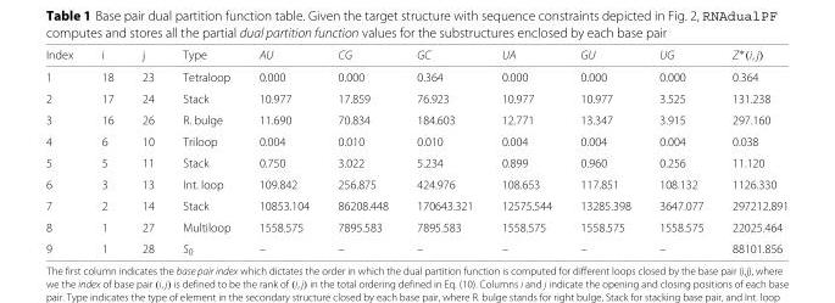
<table><thead><tr><td>Index</td><td>i</td><td>j</td><td>Type</td><td>AU</td><td>CG</td><td>GC</td><td>UA</td><td>GU</td><td>UG</td><td>Z∗(i, j)</td></tr></thead><tbody><tr><td>1</td><td>18</td><td>23</td><td>Tetraloop</td><td>0.000</td><td>0.000</td><td>0.364</td><td>0.000</td><td>0.000</td><td>0.000</td><td>0.364</td></tr><tr><td>2</td><td>17</td><td>24</td><td>Stack</td><td>10.977</td><td>17.859</td><td>76.923</td><td>10.977</td><td>10.977</td><td>3.525</td><td>131.238</td></tr><tr><td>3</td><td>16</td><td>26</td><td>R. bulge</td><td>11.690</td><td>70.834</td><td>184.603</td><td>12.771</td><td>13.347</td><td>3.915</td><td>297.160</td></tr><tr><td>4</td><td>6</td><td>10</td><td>Triloop</td><td>0.004</td><td>0.010</td><td>0.010</td><td>0.004</td><td>0.004</td><td>0.004</td><td>0.038</td></tr><tr><td>5</td><td>5</td><td>11</td><td>Stack</td><td>0.750</td><td>3.022</td><td>5.234</td><td>0.899</td><td>0.960</td><td>0.256</td><td>11.120</td></tr><tr><td>6</td><td>3</td><td>13</td><td>Int. loop</td><td>109.842</td><td>256.875</td><td>424.976</td><td>108.653</td><td>117.851</td><td>108.132</td><td>1126.330</td></tr><tr><td>7</td><td>2</td><td>14</td><td>Stack</td><td>10853.104</td><td>86208.448</td><td>170643.321</td><td>12575.544</td><td>13285.398</td><td>3647.077</td><td>297212.891</td></tr><tr><td>8</td><td>1</td><td>27</td><td>Multiloop</td><td>1558.575</td><td>7895.583</td><td>7895.583</td><td>1558.575</td><td>1558.575</td><td>1558.575</td><td>22025.464</td></tr><tr><td>9</td><td>1</td><td>28</td><td>S<sub>0</sub></td><td>–</td><td>–</td><td>–</td><td>–</td><td>–</td><td>–</td><td>88101.856</td></tr></tbody></table>